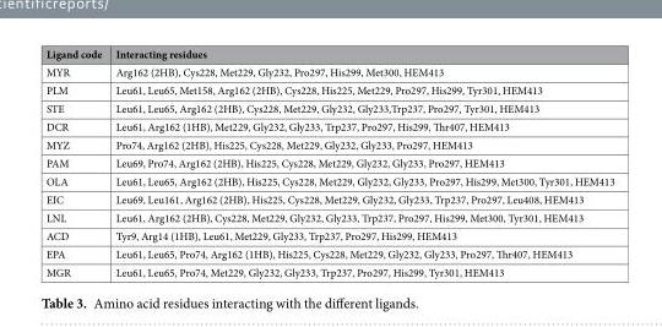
<table><thead><tr><td>Ligand code</td><td>Interacting residues</td></tr></thead><tbody><tr><td>MYR</td><td>Arg162 (2HB), Cys228, Met229, Gly232, Pro297, His299, Met300, HEM413</td></tr><tr><td>PLM</td><td>Leu61, Leu65, Met158, Arg162 (2HB), Cys228, His225, Met229, Pro297, His299, Tyr301, HEM413</td></tr><tr><td>STE</td><td>Leu61, Leu65, Arg162 (2HB), Cys228, Met229, Gly232, Gly233,Trp237, Pro297, Tyr301, HEM413</td></tr><tr><td>DCR</td><td>Leu61, Arg162 (1HB), Met229, Gly232, Gly233, Trp237, Pro297, His299, Thr407, HEM413</td></tr><tr><td>MYZ</td><td>Pro74, Arg162 (2HB), His225, Cys228, Met229, Gly232, Gly233, Pro297, HEM413</td></tr><tr><td>PAM</td><td>Leu69, Pro74, Arg162 (2HB), His225, Cys228, Met229, Gly232, Gly233, Pro297, HEM413</td></tr><tr><td>OLA</td><td>Leu61, Leu65, Arg162 (2HB), His225, Cys228, Met229, Gly232, Gly233, Pro297, His299, Met300, Tyr301, HEM413</td></tr><tr><td>EIC</td><td>Leu69, Leu161, Arg162 (2HB), His225, Cys228, Met229, Gly232, Gly233, Trp237, Pro297, Leu408, HEM413</td></tr><tr><td>LNL</td><td>Leu61, Arg162 (2HB), Cys228, Met229, Gly232, Gly233, Trp237, Pro297, His299, Met300, Tyr301, HEM413</td></tr><tr><td>ACD</td><td>Tyr9, Arg14 (1HB), Leu61, Met229, Gly233, Trp237, Pro297, His299, HEM413</td></tr><tr><td>EPA</td><td>Leu61, Leu65, Pro74, Arg162 (1HB), His225, Cys228, Met229, Gly232, Gly233, Pro297, Thr407, HEM413</td></tr><tr><td>MGR</td><td>Leu61, Leu65, Pro74, Met229, Gly232, Gly233, Trp237, Pro297, His299, Tyr301, HEM413</td></tr></tbody></table>